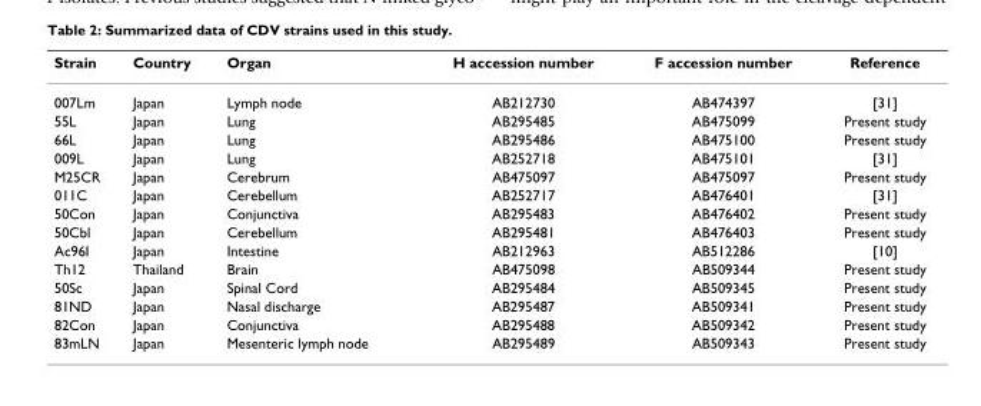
<table><tbody><tr><td>Strain</td><td>Country</td><td>Organ</td><td>H accession number</td><td>F accession number</td><td>Reference</td></tr><tr><td>007Lm</td><td>Japan</td><td>Lymph node</td><td>AB212730</td><td>AB474397</td><td>[31]</td></tr><tr><td>55L</td><td>Japan</td><td>Lung</td><td>AB295485</td><td>AB475099</td><td>Present study</td></tr><tr><td>66L</td><td>Japan</td><td>Lung</td><td>AB295486</td><td>AB475100</td><td>Present study</td></tr><tr><td>009L</td><td>Japan</td><td>Lung</td><td>AB252718</td><td>AB475101</td><td>[31]</td></tr><tr><td>M25CR</td><td>Japan</td><td>Cerebrum</td><td>AB475097</td><td>AB475097</td><td>Present study</td></tr><tr><td>011C</td><td>Japan</td><td>Cerebellum</td><td>AB252717</td><td>AB476401</td><td>[31]</td></tr><tr><td>50Con</td><td>Japan</td><td>Conjunctiva</td><td>AB295483</td><td>AB476402</td><td>Present study</td></tr><tr><td>50Cbl</td><td>Japan</td><td>Cerebellum</td><td>AB295481</td><td>AB476403</td><td>Present study</td></tr><tr><td>Ac96I</td><td>Japan</td><td>Intestine</td><td>AB212963</td><td>AB512286</td><td>[10]</td></tr><tr><td>Th12</td><td>Thailand</td><td>Brain</td><td>AB475098</td><td>AB509344</td><td>Present study</td></tr><tr><td>50Sc</td><td>Japan</td><td>Spinal Cord</td><td>AB295484</td><td>AB509345</td><td>Present study</td></tr><tr><td>81ND</td><td>Japan</td><td>Nasal discharge</td><td>AB295487</td><td>AB509341</td><td>Present study</td></tr><tr><td>82Con</td><td>Japan</td><td>Conjunctiva</td><td>AB295488</td><td>AB509342</td><td>Present study</td></tr><tr><td>83mLN</td><td>Japan</td><td>Mesenteric lymph node</td><td>AB295489</td><td>AB509343</td><td>Present study</td></tr></tbody></table>